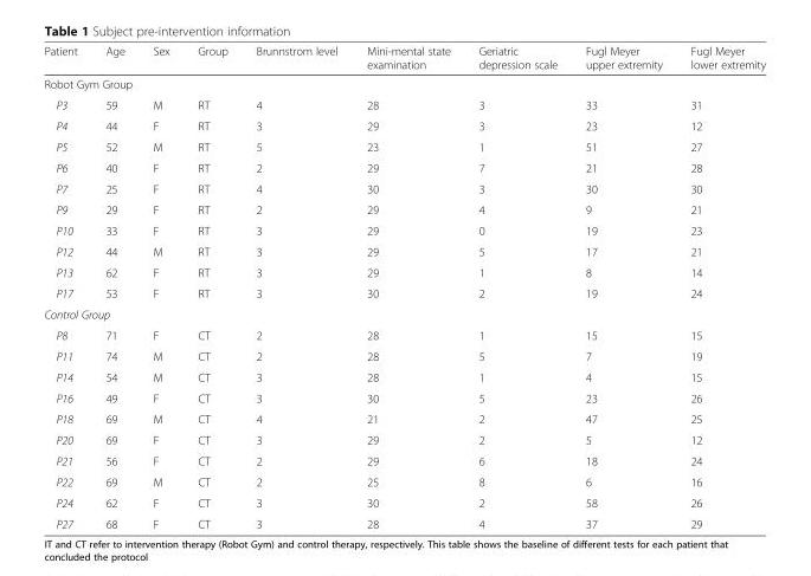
<table><thead><tr><td>Patient</td><td>Age</td><td>Sex</td><td>Group</td><td>Brunnstrom level</td><td>Mini-mental state examination</td><td>Geriatric depression scale</td><td>Fugl Meyer upper extremity</td><td>Fugl Meyer lower extremity</td></tr></thead><tbody><tr><td colspan="9">Robot Gym Group</td></tr><tr><td>P3</td><td>59</td><td>M</td><td>RT</td><td>4</td><td>28</td><td>3</td><td>33</td><td>31</td></tr><tr><td>P4</td><td>44</td><td>F</td><td>RT</td><td>3</td><td>29</td><td>3</td><td>23</td><td>12</td></tr><tr><td>P5</td><td>52</td><td>M</td><td>RT</td><td>5</td><td>23</td><td>1</td><td>51</td><td>27</td></tr><tr><td>P6</td><td>40</td><td>F</td><td>RT</td><td>2</td><td>29</td><td>7</td><td>21</td><td>28</td></tr><tr><td>P7</td><td>25</td><td>F</td><td>RT</td><td>4</td><td>30</td><td>3</td><td>30</td><td>30</td></tr><tr><td>P9</td><td>29</td><td>F</td><td>RT</td><td>2</td><td>29</td><td>4</td><td>9</td><td>21</td></tr><tr><td>P10</td><td>33</td><td>F</td><td>RT</td><td>3</td><td>29</td><td>0</td><td>19</td><td>23</td></tr><tr><td>P12</td><td>44</td><td>M</td><td>RT</td><td>3</td><td>29</td><td>5</td><td>17</td><td>21</td></tr><tr><td>P13</td><td>62</td><td>F</td><td>RT</td><td>3</td><td>29</td><td>1</td><td>8</td><td>14</td></tr><tr><td>P17</td><td>53</td><td>F</td><td>RT</td><td>3</td><td>30</td><td>2</td><td>19</td><td>24</td></tr><tr><td colspan="9">Control Group</td></tr><tr><td>P8</td><td>71</td><td>F</td><td>CT</td><td>2</td><td>28</td><td>1</td><td>15</td><td>15</td></tr><tr><td>P11</td><td>74</td><td>M</td><td>CT</td><td>2</td><td>28</td><td>5</td><td>7</td><td>19</td></tr><tr><td>P14</td><td>54</td><td>M</td><td>CT</td><td>3</td><td>28</td><td>1</td><td>4</td><td>15</td></tr><tr><td>P16</td><td>49</td><td>F</td><td>CT</td><td>3</td><td>30</td><td>5</td><td>23</td><td>26</td></tr><tr><td>P18</td><td>69</td><td>M</td><td>CT</td><td>4</td><td>21</td><td>2</td><td>47</td><td>25</td></tr><tr><td>P20</td><td>69</td><td>F</td><td>CT</td><td>3</td><td>29</td><td>2</td><td>5</td><td>12</td></tr><tr><td>P21</td><td>56</td><td>F</td><td>CT</td><td>2</td><td>29</td><td>6</td><td>18</td><td>24</td></tr><tr><td>P22</td><td>69</td><td>M</td><td>CT</td><td>2</td><td>25</td><td>8</td><td>6</td><td>16</td></tr><tr><td>P24</td><td>62</td><td>F</td><td>CT</td><td>3</td><td>30</td><td>2</td><td>58</td><td>26</td></tr><tr><td>P27</td><td>68</td><td>F</td><td>CT</td><td>3</td><td>28</td><td>4</td><td>37</td><td>29</td></tr></tbody></table>